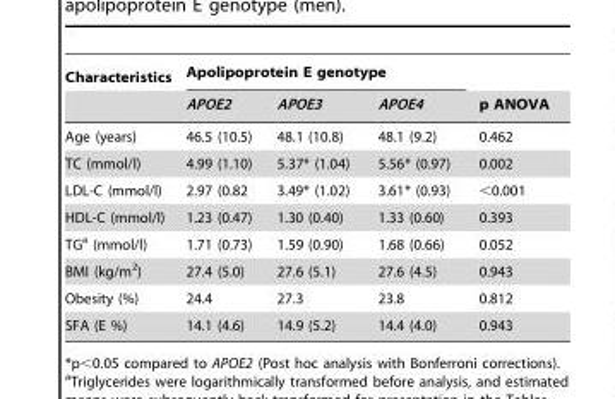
<table><thead><tr><td rowspan="2">Characteristics</td><td colspan="3">Apolipoprotein E genotype</td><td rowspan="2">p ANOVA</td></tr><tr><td>APOE2</td><td>APOE3</td><td>APOE4</td></tr></thead><tbody><tr><td>Age (years)</td><td>46.5 (10.5)</td><td>48.1 (10.8)</td><td>48.1 (9.2)</td><td>0.462</td></tr><tr><td>TC (mmol/l)</td><td>4.99 (1.10)</td><td>5.37* (1.04)</td><td>5.56* (0.97)</td><td>0.002</td></tr><tr><td>LDL-C (mmol/l)</td><td>2.97 (0.82</td><td>3.49* (1.02)</td><td>3.61* (0.93)</td><td>&lt;0.001</td></tr><tr><td>HDL-C (mmol/l)</td><td>1.23 (0.47)</td><td>1.30 (0.40)</td><td>1.33 (0.60)</td><td>0.393</td></tr><tr><td>TG<sup>a</sup> (mmol/l)</td><td>1.71 (0.73)</td><td>1.59 (0.90)</td><td>1.68 (0.66)</td><td>0.052</td></tr><tr><td>BMI (kg/m<sup>2</sup>)</td><td>27.4 (5.0)</td><td>27.6 (5.1)</td><td>27.6 (4.5)</td><td>0.943</td></tr><tr><td>Obesity (%)</td><td>24.4</td><td>27.3</td><td>23.8</td><td>0.812</td></tr><tr><td>SFA (E %)</td><td>14.1 (4.6)</td><td>14.9 (5.2)</td><td>14.4 (4.0)</td><td>0.943</td></tr></tbody></table>